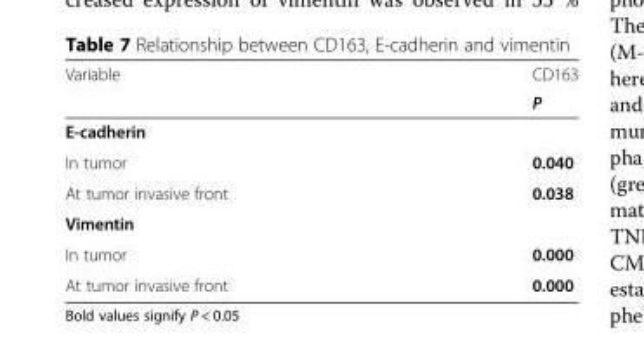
<table><thead><tr><td rowspan="2">Variable</td><td rowspan="2">CD163 P</td></tr><tr></tr></thead><tbody><tr><td colspan="2">E-cadherin</td></tr><tr><td>In tumor</td><td>0.040</td></tr><tr><td>At tumor invasive front</td><td>0.038</td></tr><tr><td colspan="2">Vimentin</td></tr><tr><td>In tumor</td><td>0.000</td></tr><tr><td>At tumor invasive front</td><td>0.000</td></tr></tbody></table>